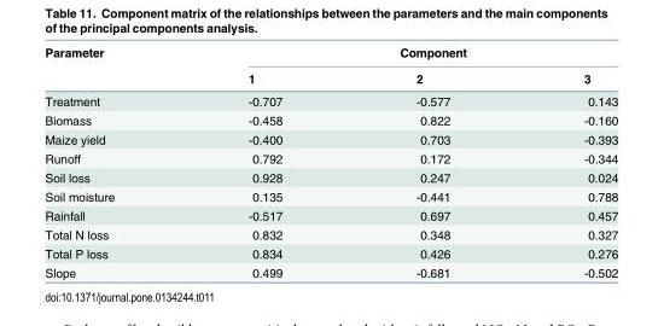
<table><thead><tr><td rowspan="2">Parameter</td><td colspan="3">Component</td></tr><tr><td>1</td><td>2</td><td>3</td></tr></thead><tbody><tr><td>Treatment</td><td>-0.707</td><td>-0.577</td><td>0.143</td></tr><tr><td>Biomass</td><td>-0.458</td><td>0.822</td><td>-0.160</td></tr><tr><td>Maize yield</td><td>-0.400</td><td>0.703</td><td>-0.393</td></tr><tr><td>Runoff</td><td>0.792</td><td>0.172</td><td>-0.344</td></tr><tr><td>Soil loss</td><td>0.928</td><td>0.247</td><td>0.024</td></tr><tr><td>Soil moisture</td><td>0.135</td><td>-0.441</td><td>0.788</td></tr><tr><td>Rainfall</td><td>-0.517</td><td>0.697</td><td>0.457</td></tr><tr><td>Total N loss</td><td>0.832</td><td>0.348</td><td>0.327</td></tr><tr><td>Total P loss</td><td>0.834</td><td>0.426</td><td>0.276</td></tr><tr><td>Slope</td><td>0.499</td><td>-0.681</td><td>-0.502</td></tr></tbody></table>